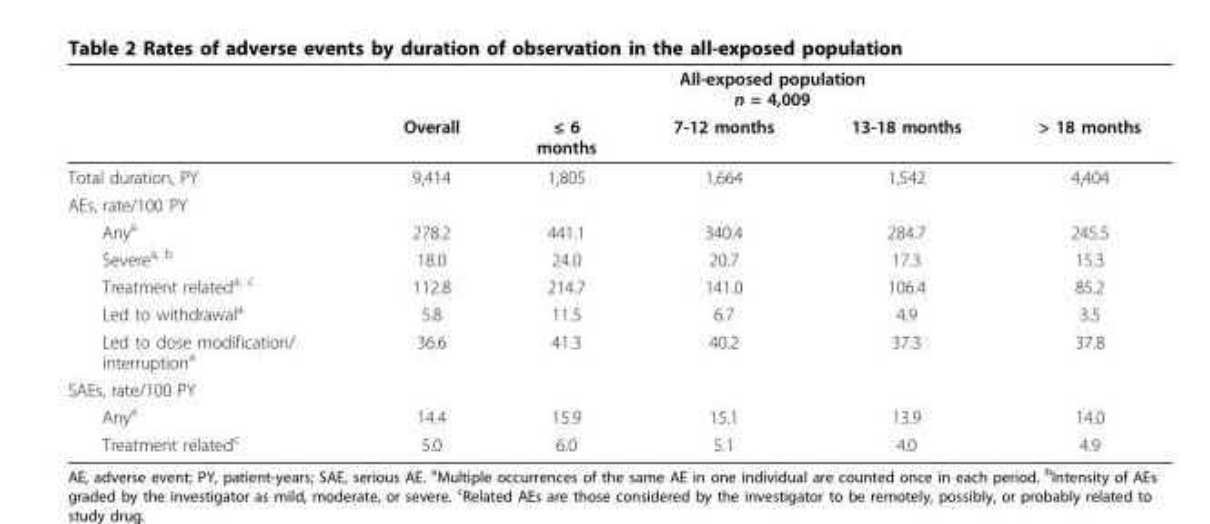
<table><thead><tr><td rowspan="2"></td><td colspan="5">All-exposed population n = 4,009</td></tr><tr><td>Overall</td><td>≤ 6 months</td><td>7-12 months</td><td>13-18 months</td><td>&gt; 18 months</td></tr></thead><tbody><tr><td>Total duration, PY</td><td>9,414</td><td>1,805</td><td>1,664</td><td>1,542</td><td>4,404</td></tr><tr><td colspan="6">AEs, rate/100 PY</td></tr><tr><td>Any<sup>a</sup></td><td>278.2</td><td>441.1</td><td>340.4</td><td>284.7</td><td>245.5</td></tr><tr><td>Severe<sup>a, b</sup></td><td>18.0</td><td>24.0</td><td>20.7</td><td>17.3</td><td>15.3</td></tr><tr><td>Treatment related<sup>a, c</sup></td><td>112.8</td><td>214.7</td><td>141.0</td><td>106.4</td><td>85.2</td></tr><tr><td>Led to withdrawal<sup>a</sup></td><td>5.8</td><td>11.5</td><td>6.7</td><td>4.9</td><td>3.5</td></tr><tr><td>Led to dose modification/ interruption<sup>a</sup></td><td>36.6</td><td>41.3</td><td>40.2</td><td>37.3</td><td>37.8</td></tr><tr><td colspan="6">SAEs, rate/100 PY</td></tr><tr><td>Any<sup>a</sup></td><td>14.4</td><td>15.9</td><td>15.1</td><td>13.9</td><td>14.0</td></tr><tr><td>Treatment related<sup>c</sup></td><td>5.0</td><td>6.0</td><td>5.1</td><td>4.0</td><td>4.9</td></tr></tbody></table>